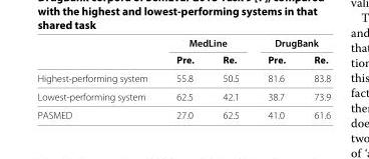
<table><thead><tr><td rowspan="2"></td><td colspan="2">MedLine</td><td colspan="2">DrugBank</td></tr><tr><td>Pre.</td><td>Re.</td><td>Pre.</td><td>Re.</td></tr></thead><tbody><tr><td>Highest-performing system</td><td>55.8</td><td>50.5</td><td>81.6</td><td>83.8</td></tr><tr><td>Lowest-performing system</td><td>62.5</td><td>42.1</td><td>38.7</td><td>73.9</td></tr><tr><td>PASMED</td><td>27.0</td><td>62.5</td><td>41.0</td><td>61.6</td></tr></tbody></table>